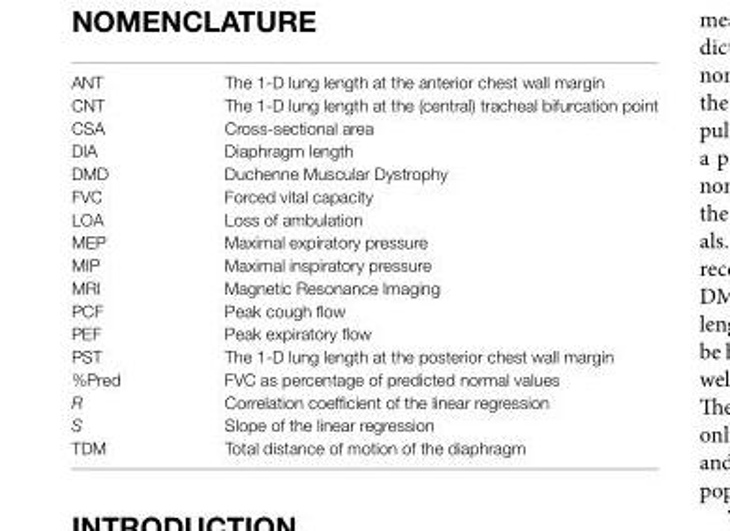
<table><tbody><tr><td>ANT</td><td>The 1-D lung length at the anterior chest wall margin</td></tr><tr><td>CNT</td><td>The 1-D lung length at the (central) tracheal bifurcation point</td></tr><tr><td>CSA</td><td>Cross-sectional area</td></tr><tr><td>DIA</td><td>Diaphragm length</td></tr><tr><td>DMD</td><td>Duchenne Muscular Dystrophy</td></tr><tr><td>FVC</td><td>Forced vital capacity</td></tr><tr><td>LOA</td><td>Loss of ambulation</td></tr><tr><td>MEP</td><td>Maximal expiratory pressure</td></tr><tr><td>MIP</td><td>Maximal inspiratory pressure</td></tr><tr><td>MRI</td><td>Magnetic Resonance Imaging</td></tr><tr><td>PCF</td><td>Peak cough flow</td></tr><tr><td>PEF</td><td>Peak expiratory flow</td></tr><tr><td>PST</td><td>The 1-D lung length at the posterior chest wall margin</td></tr><tr><td>%Pred</td><td>FVC as percentage of predicted normal values</td></tr><tr><td>R</td><td>Correlation coefficient of the linear regression</td></tr><tr><td>S</td><td>Slope of the linear regression</td></tr><tr><td>TDM</td><td>Total distance of motion of the diaphragm</td></tr></tbody></table>